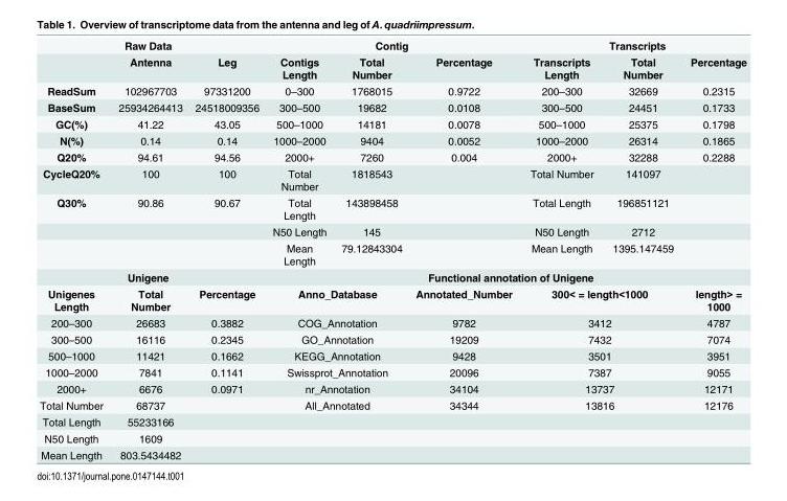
<table><tbody><tr><td colspan="3">Raw Data</td><td colspan="3">Contig</td><td colspan="3">Transcripts</td></tr><tr><td></td><td>Antenna</td><td>Leg</td><td>Contigs Length</td><td>Total Number</td><td>Percentage</td><td>Transcripts Length</td><td>Total Number</td><td>Percentage</td></tr><tr><td>ReadSum</td><td>102967703</td><td>97331200</td><td>0–300</td><td>1768015</td><td>0.9722</td><td>200–300</td><td>32669</td><td>0.2315</td></tr><tr><td>BaseSum</td><td>25934264413</td><td>24518009356</td><td>300–500</td><td>19682</td><td>0.0108</td><td>300–500</td><td>24451</td><td>0.1733</td></tr><tr><td>GC(%)</td><td>41.22</td><td>43.05</td><td>500–1000</td><td>14181</td><td>0.0078</td><td>500–1000</td><td>25375</td><td>0.1798</td></tr><tr><td>N(%)</td><td>0.14</td><td>0.14</td><td>1000–2000</td><td>9404</td><td>0.0052</td><td>1000–2000</td><td>26314</td><td>0.1865</td></tr><tr><td>Q20%</td><td>94.61</td><td>94.56</td><td>2000+</td><td>7260</td><td>0.004</td><td>2000+</td><td>32288</td><td>0.2288</td></tr><tr><td>CycleQ20%</td><td>100</td><td>100</td><td>Total Number</td><td>1818543</td><td></td><td>Total Number</td><td>141097</td><td></td></tr><tr><td rowspan="3">Q30%</td><td>90.86</td><td>90.67</td><td>Total Length</td><td>143898458</td><td></td><td>Total Length</td><td>196851121</td><td></td></tr><tr><td></td><td></td><td>N50 Length</td><td>145</td><td></td><td>N50 Length</td><td>2712</td><td></td></tr><tr><td></td><td></td><td>Mean Length</td><td>79.12843304</td><td></td><td>Mean Length</td><td>1395.147459</td><td></td></tr><tr><td colspan="3">Unigene</td><td colspan="6">Functional annotation of Unigene</td></tr><tr><td>Unigenes Length</td><td>Total Number</td><td>Percentage</td><td colspan="2">Anno_Database</td><td>Annotated_Number</td><td colspan="2">300&lt; = length&lt;1000</td><td>length&gt; = 1000</td></tr><tr><td>200–300</td><td>26683</td><td>0.3882</td><td colspan="2">COG_Annotation</td><td>9782</td><td colspan="2">3412</td><td>4787</td></tr><tr><td>300–500</td><td>16116</td><td>0.2345</td><td colspan="2">GO_Annotation</td><td>19209</td><td colspan="2">7432</td><td>7074</td></tr><tr><td>500–1000</td><td>11421</td><td>0.1662</td><td colspan="2">KEGG_Annotation</td><td>9428</td><td colspan="2">3501</td><td>3951</td></tr><tr><td>1000–2000</td><td>7841</td><td>0.1141</td><td colspan="2">Swissprot_Annotation</td><td>20096</td><td colspan="2">7387</td><td>9055</td></tr><tr><td>2000+</td><td>6676</td><td>0.0971</td><td colspan="2">nr_Annotation</td><td>34104</td><td colspan="2">13737</td><td>12171</td></tr><tr><td>Total Number</td><td>68737</td><td></td><td colspan="2">All_Annotated</td><td>34344</td><td colspan="2">13816</td><td>12176</td></tr><tr><td>Total Length</td><td>55233166</td><td></td><td colspan="2"></td><td></td><td colspan="2"></td><td></td></tr><tr><td>N50 Length</td><td>1609</td><td></td><td colspan="2"></td><td></td><td colspan="2"></td><td></td></tr><tr><td>Mean Length</td><td>803.5434482</td><td></td><td colspan="2"></td><td></td><td colspan="2"></td><td></td></tr></tbody></table>